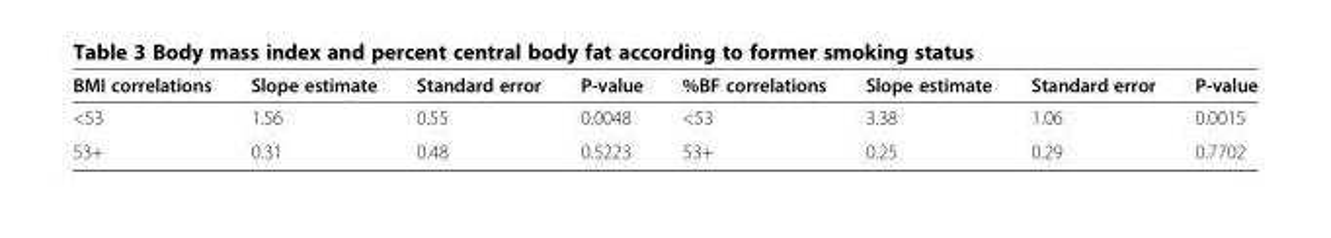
<table><thead><tr><td>BMI correlations</td><td>Slope estimate</td><td>Standard error</td><td>P-value</td><td>%BF correlations</td><td>Slope estimate</td><td>Standard error</td><td>P-value</td></tr></thead><tbody><tr><td>&lt;53</td><td>1.56</td><td>0.55</td><td>0.0048</td><td>&lt;53</td><td>3.38</td><td>1.06</td><td>0.0015</td></tr><tr><td>53+</td><td>0.31</td><td>0.48</td><td>0.5223</td><td>53+</td><td>0.25</td><td>0.29</td><td>0.7702</td></tr></tbody></table>